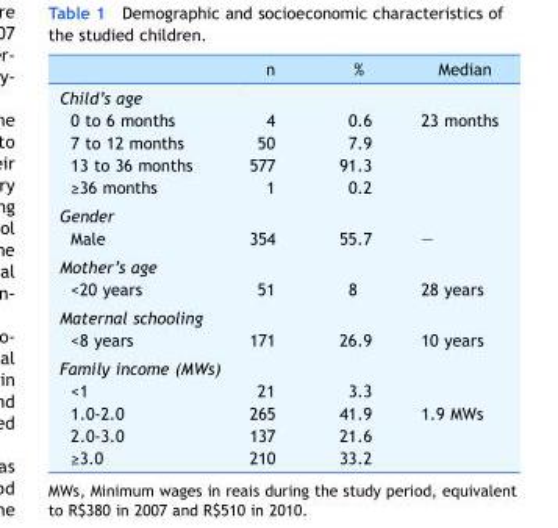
<table><thead><tr><td></td><td>n</td><td>%</td><td>Median</td></tr></thead><tbody><tr><td colspan="4">Child’s age</td></tr><tr><td>0 to 6 months</td><td>4</td><td>0.6</td><td rowspan="4">23 months</td></tr><tr><td>7 to 12 months</td><td>50</td><td>7.9</td></tr><tr><td>13 to 36 months</td><td>577</td><td>91.3</td></tr><tr><td>≥36 months</td><td>1</td><td>0.2</td></tr><tr><td colspan="4">Gender</td></tr><tr><td>Male</td><td>354</td><td>55.7</td><td>—</td></tr><tr><td colspan="4">Mother’s age</td></tr><tr><td>&lt;20 years</td><td>51</td><td>8</td><td>28 years</td></tr><tr><td colspan="4">Maternal schooling</td></tr><tr><td>&lt;8 years</td><td>171</td><td>26.9</td><td>10 years</td></tr><tr><td colspan="4">Family income (MWs)</td></tr><tr><td>&lt;1</td><td>21</td><td>3.3</td><td></td></tr><tr><td>1.0-2.0</td><td>265</td><td>41.9</td><td>1.9 MWs</td></tr><tr><td>2.0-3.0</td><td>137</td><td>21.6</td><td></td></tr><tr><td>≥3.0</td><td>210</td><td>33.2</td><td></td></tr></tbody></table>